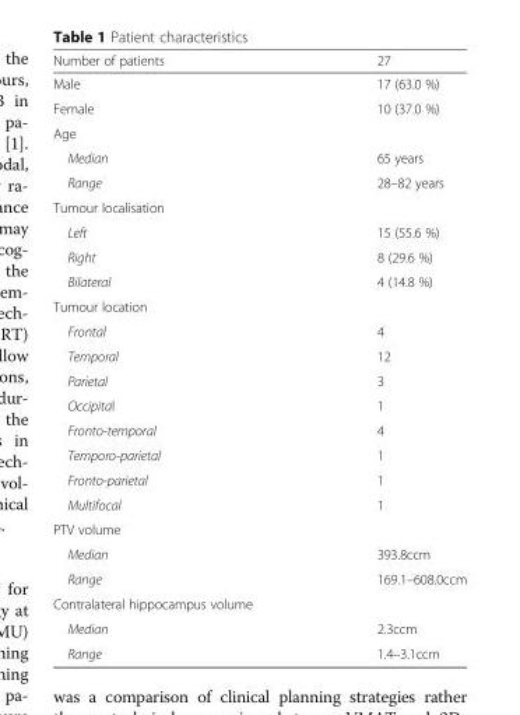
<table><thead><tr><td>Number of patients</td><td>27</td></tr></thead><tbody><tr><td>Male</td><td>17 (63.0 %)</td></tr><tr><td>Female</td><td>10 (37.0 %)</td></tr><tr><td colspan="2">Age</td></tr><tr><td>Median</td><td>65 years</td></tr><tr><td>Range</td><td>28–82 years</td></tr><tr><td colspan="2">Tumour localisation</td></tr><tr><td>Left</td><td>15 (55.6 %)</td></tr><tr><td>Right</td><td>8 (29.6 %)</td></tr><tr><td>Bilateral</td><td>4 (14.8 %)</td></tr><tr><td colspan="2">Tumour location</td></tr><tr><td>Frontal</td><td>4</td></tr><tr><td>Temporal</td><td>12</td></tr><tr><td>Parietal</td><td>3</td></tr><tr><td>Occipital</td><td>1</td></tr><tr><td>Fronto-temporal</td><td>4</td></tr><tr><td>Temporo-parietal</td><td>1</td></tr><tr><td>Fronto-parietal</td><td>1</td></tr><tr><td>Multifocal</td><td>1</td></tr><tr><td colspan="2">PTV volume</td></tr><tr><td>Median</td><td>393.8ccm</td></tr><tr><td>Range</td><td>169.1–608.0ccm</td></tr><tr><td colspan="2">Contralateral hippocampus volume</td></tr><tr><td>Median</td><td>2.3ccm</td></tr><tr><td>Range</td><td>1.4–3.1ccm</td></tr></tbody></table>